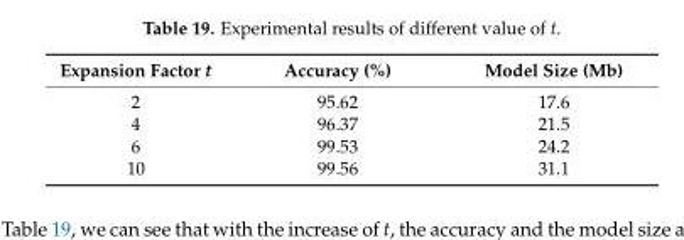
<table><thead><tr><td>Expansion Factor t</td><td>Accuracy (%)</td><td>Model Size (Mb)</td></tr></thead><tbody><tr><td>2</td><td>95.62</td><td>17.6</td></tr><tr><td>4</td><td>96.37</td><td>21.5</td></tr><tr><td>6</td><td>99.53</td><td>24.2</td></tr><tr><td>10</td><td>99.56</td><td>31.1</td></tr></tbody></table>